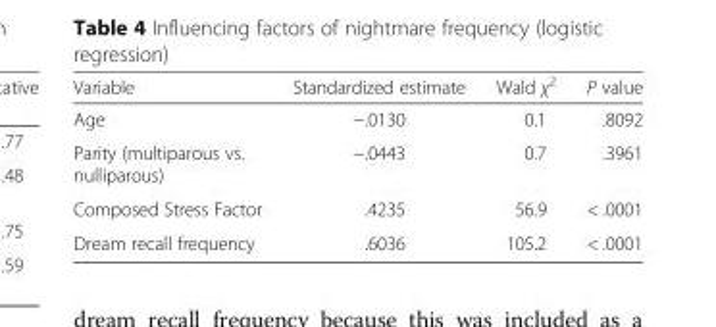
<table><thead><tr><td>Variable</td><td>Standardized estimate</td><td>Wald χ<sup>2</sup></td><td>P value</td></tr></thead><tbody><tr><td>Age</td><td>−.0130</td><td>0.1</td><td>.8092</td></tr><tr><td>Parity (multiparous vs. nulliparous)</td><td>−.0443</td><td>0.7</td><td>.3961</td></tr><tr><td>Composed Stress Factor</td><td>.4235</td><td>56.9</td><td>&lt; .0001</td></tr><tr><td>Dream recall frequency</td><td>.6036</td><td>105.2</td><td>&lt; .0001</td></tr></tbody></table>